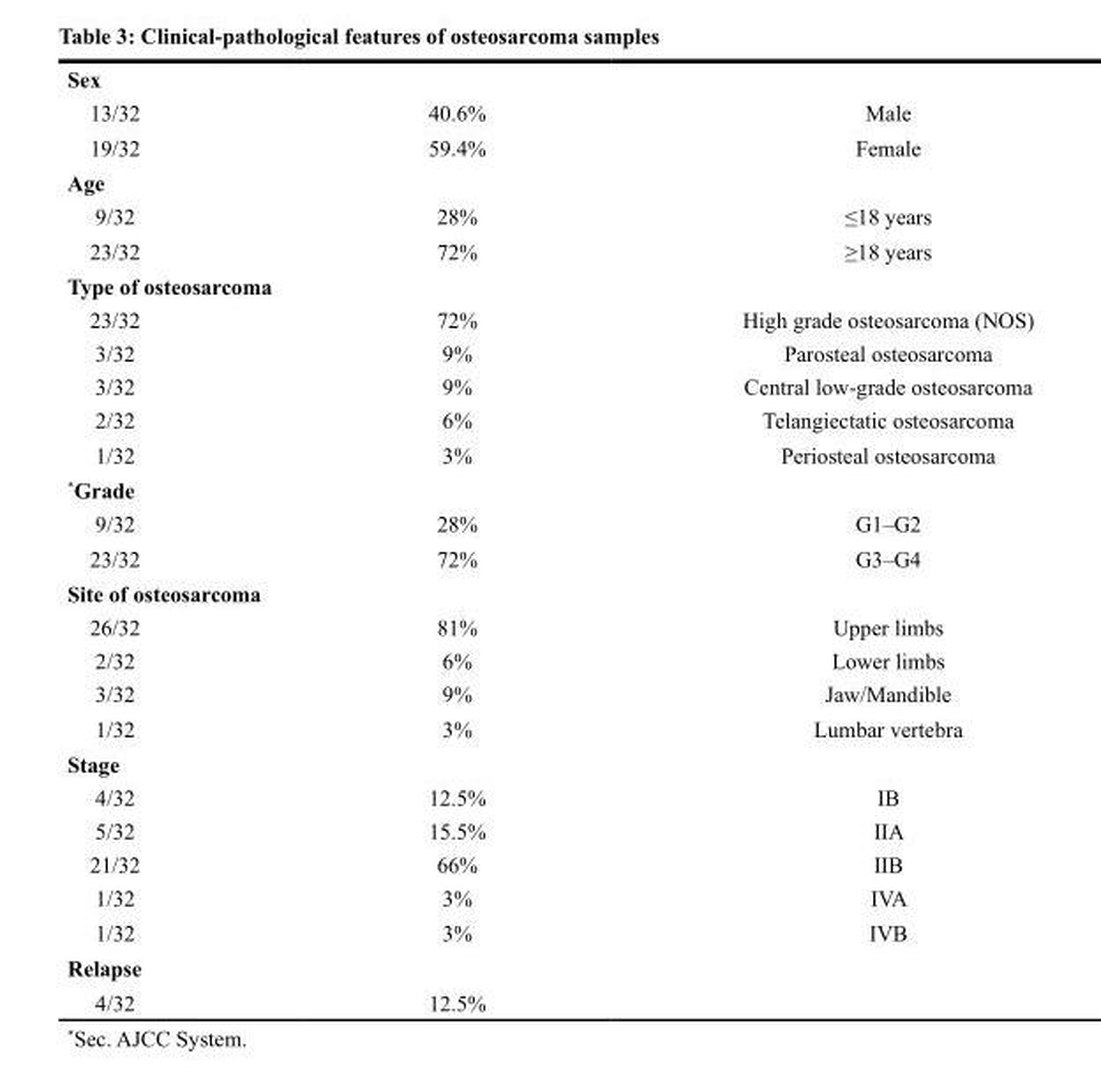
<table><tbody><tr><td colspan="3">Sex</td></tr><tr><td>13/32</td><td>40.6%</td><td>Male</td></tr><tr><td>19/32</td><td>59.4%</td><td>Female</td></tr><tr><td colspan="3">Age</td></tr><tr><td>9/32</td><td>28%</td><td>≤18 years</td></tr><tr><td>23/32</td><td>72%</td><td>≥18 years</td></tr><tr><td colspan="3">Type of osteosarcoma</td></tr><tr><td>23/32</td><td>72%</td><td>High grade osteosarcoma (NOS)</td></tr><tr><td>3/32</td><td>9%</td><td>Parosteal osteosarcoma</td></tr><tr><td>3/32</td><td>9%</td><td>Central low-grade osteosarcoma</td></tr><tr><td>2/32</td><td>6%</td><td>Telangiectatic osteosarcoma</td></tr><tr><td>1/32</td><td>3%</td><td>Periosteal osteosarcoma</td></tr><tr><td colspan="3">*Grade</td></tr><tr><td>9/32</td><td>28%</td><td>G1–G2</td></tr><tr><td>23/32</td><td>72%</td><td>G3–G4</td></tr><tr><td colspan="3">Site of osteosarcoma</td></tr><tr><td>26/32</td><td>81%</td><td>Upper limbs</td></tr><tr><td>2/32</td><td>6%</td><td>Lower limbs</td></tr><tr><td>3/32</td><td>9%</td><td>Jaw/Mandible</td></tr><tr><td>1/32</td><td>3%</td><td>Lumbar vertebra</td></tr><tr><td colspan="3">Stage</td></tr><tr><td>4/32</td><td>12.5%</td><td>IB</td></tr><tr><td>5/32</td><td>15.5%</td><td>IIA</td></tr><tr><td>21/32</td><td>66%</td><td>IIB</td></tr><tr><td>1/32</td><td>3%</td><td>IVA</td></tr><tr><td>1/32</td><td>3%</td><td>IVB</td></tr><tr><td colspan="3">Relapse</td></tr><tr><td>4/32</td><td>12.5%</td><td></td></tr></tbody></table>